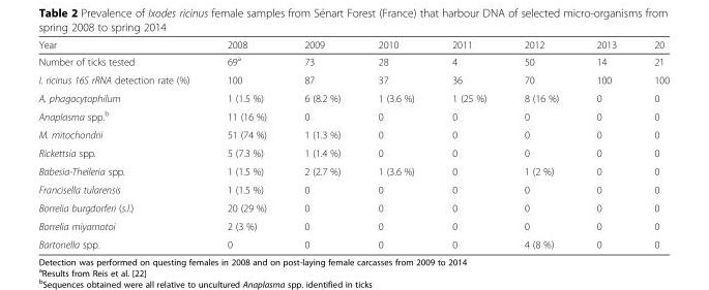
<table><thead><tr><td>Year</td><td>2008</td><td>2009</td><td>2010</td><td>2011</td><td>2012</td><td>2013</td><td>20</td></tr></thead><tbody><tr><td>Number of ticks tested</td><td>69<sup>a</sup></td><td>73</td><td>28</td><td>4</td><td>50</td><td>14</td><td>21</td></tr><tr><td>I. ricinus 16S rRNA detection rate (%)</td><td>100</td><td>87</td><td>37</td><td>36</td><td>70</td><td>100</td><td>100</td></tr><tr><td>A. phagocytophilum</td><td>1 (1.5 %)</td><td>6 (8.2 %)</td><td>1 (3.6 %)</td><td>1 (25 %)</td><td>8 (16 %)</td><td>0</td><td>0</td></tr><tr><td>Anaplasma spp.<sup>b</sup></td><td>11 (16 %)</td><td>0</td><td>0</td><td>0</td><td>0</td><td>0</td><td>0</td></tr><tr><td>M. mitochondrii</td><td>51 (74 %)</td><td>1 (1.3 %)</td><td>0</td><td>0</td><td>0</td><td>0</td><td>0</td></tr><tr><td>Rickettsia spp.</td><td>5 (7.3 %)</td><td>1 (1.4 %)</td><td>0</td><td>0</td><td>0</td><td>0</td><td>0</td></tr><tr><td>Babesia-Theileria spp.</td><td>1 (1.5 %)</td><td>2 (2.7 %)</td><td>1 (3.6 %)</td><td>0</td><td>1 (2 %)</td><td>0</td><td>0</td></tr><tr><td>Francisella tularensis</td><td>1 (1.5 %)</td><td>0</td><td>0</td><td>0</td><td>0</td><td>0</td><td>0</td></tr><tr><td>Borrelia burgdorferi (s.l.)</td><td>20 (29 %)</td><td>0</td><td>0</td><td>0</td><td>0</td><td>0</td><td>0</td></tr><tr><td>Borrelia miyamotoi</td><td>2 (3 %)</td><td>0</td><td>0</td><td>0</td><td>0</td><td>0</td><td>0</td></tr><tr><td>Bartonella spp.</td><td>0</td><td>0</td><td>0</td><td>0</td><td>4 (8 %)</td><td>0</td><td>0</td></tr></tbody></table>